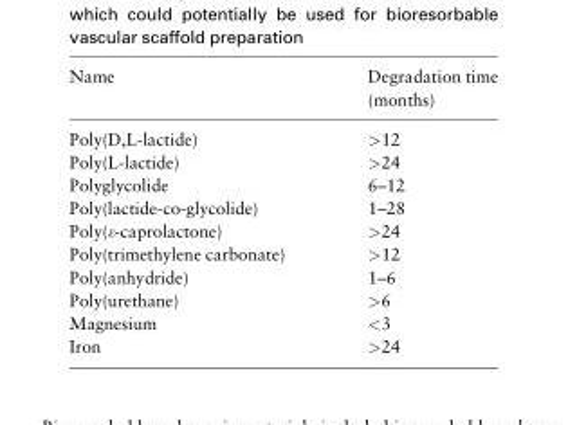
<table><thead><tr><td>Name</td><td>Degradation time (months)</td></tr></thead><tbody><tr><td>Poly(D,L-lactide)</td><td>&gt;12</td></tr><tr><td>Poly(L-lactide)</td><td>&gt;24</td></tr><tr><td>Polyglycolide</td><td>6–12</td></tr><tr><td>Poly(lactide-co-glycolide)</td><td>1–28</td></tr><tr><td>Poly(ε-caprolactone)</td><td>&gt;24</td></tr><tr><td>Poly(trimethylene carbonate)</td><td>&gt;12</td></tr><tr><td>Poly(anhydride)</td><td>1–6</td></tr><tr><td>Poly(urethane)</td><td>&gt;6</td></tr><tr><td>Magnesium</td><td>&lt;3</td></tr><tr><td>Iron</td><td>&gt;24</td></tr></tbody></table>